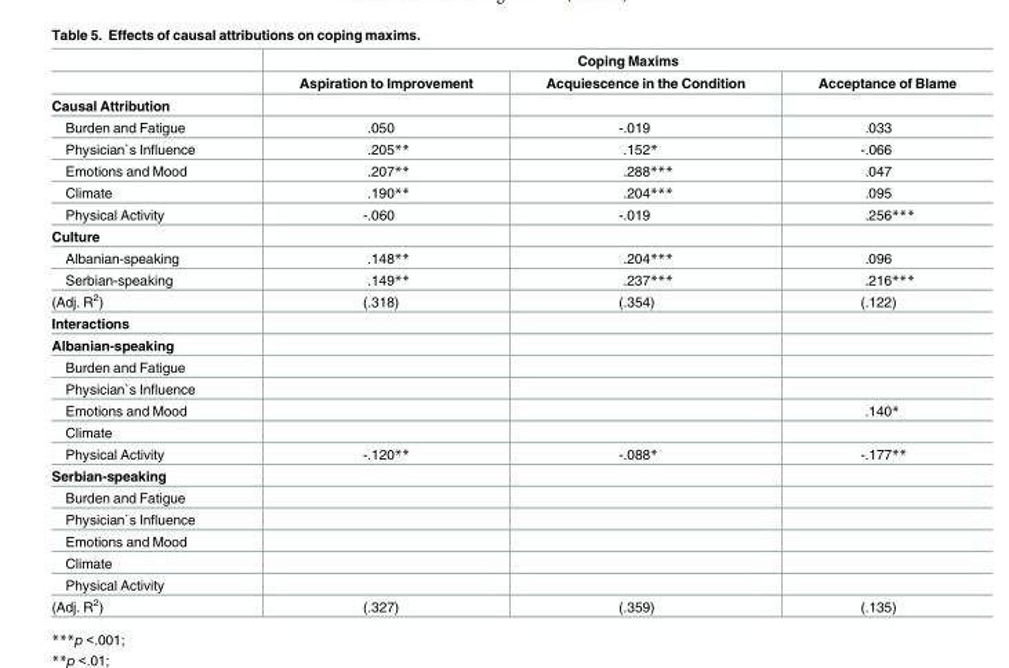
<table><thead><tr><td rowspan="2"></td><td colspan="3">Coping Maxims</td></tr><tr><td>Aspiration to Improvement</td><td>Acquiescence in the Condition</td><td>Acceptance of Blame</td></tr></thead><tbody><tr><td colspan="4">Causal Attribution</td></tr><tr><td>Burden and Fatigue</td><td>.050</td><td>-.019</td><td>.033</td></tr><tr><td>Physician`s Influence</td><td>.205**</td><td>.152*</td><td>-.066</td></tr><tr><td>Emotions and Mood</td><td>.207**</td><td>.288***</td><td>.047</td></tr><tr><td>Climate</td><td>.190**</td><td>.204***</td><td>.095</td></tr><tr><td>Physical Activity</td><td>-.060</td><td>-.019</td><td>.256***</td></tr><tr><td colspan="4">Culture</td></tr><tr><td>Albanian-speaking</td><td>.148**</td><td>.204***</td><td>.096</td></tr><tr><td>Serbian-speaking</td><td>.149**</td><td>.237***</td><td>.216***</td></tr><tr><td>(Adj. R<sup>2</sup>)</td><td>(.318)</td><td>(.354)</td><td>(.122)</td></tr><tr><td colspan="4">Interactions</td></tr><tr><td colspan="4">Albanian-speaking</td></tr><tr><td colspan="4">Burden and Fatigue</td></tr><tr><td colspan="4">Physician`s Influence</td></tr><tr><td>Emotions and Mood</td><td></td><td></td><td>.140*</td></tr><tr><td colspan="4">Climate</td></tr><tr><td>Physical Activity</td><td>-.120**</td><td>-.088*</td><td>-.177**</td></tr><tr><td colspan="4">Serbian-speaking</td></tr><tr><td colspan="4">Burden and Fatigue</td></tr><tr><td colspan="4">Physician`s Influence</td></tr><tr><td colspan="4">Emotions and Mood</td></tr><tr><td colspan="4">Climate</td></tr><tr><td colspan="4">Physical Activity</td></tr><tr><td>(Adj. R<sup>2</sup>)</td><td>(.327)</td><td>(.359)</td><td>(.135)</td></tr></tbody></table>